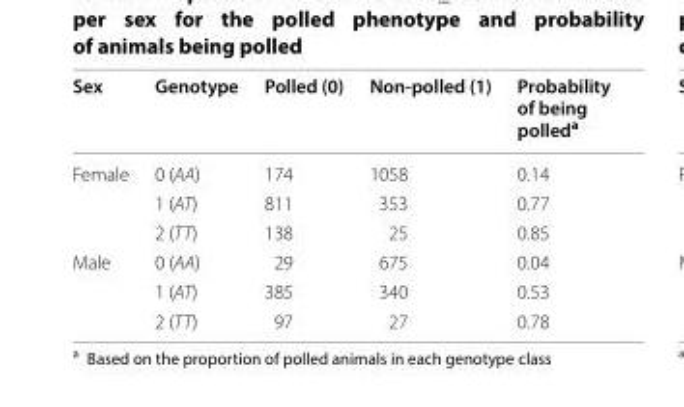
<table><thead><tr><td>Sex</td><td>Genotype</td><td>Polled (0)</td><td>Non-polled (1)</td><td>Probability of being polled<sup>a</sup></td></tr></thead><tbody><tr><td rowspan="3">Female</td><td>0 (AA)</td><td>174</td><td>1058</td><td>0.14</td></tr><tr><td>1 (AT)</td><td>811</td><td>353</td><td>0.77</td></tr><tr><td>2 (TT)</td><td>138</td><td>25</td><td>0.85</td></tr><tr><td rowspan="3">Male</td><td>0 (AA)</td><td>29</td><td>675</td><td>0.04</td></tr><tr><td>1 (AT)</td><td>385</td><td>340</td><td>0.53</td></tr><tr><td>2 (TT)</td><td>97</td><td>27</td><td>0.78</td></tr></tbody></table>